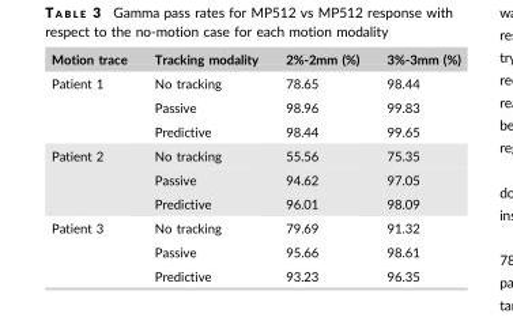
<table><thead><tr><td>Motion trace</td><td>Tracking modality</td><td>2%-2mm (%)</td><td>3%-3mm (%)</td></tr></thead><tbody><tr><td rowspan="3">Patient 1</td><td>No tracking</td><td>78.65</td><td>98.44</td></tr><tr><td>Passive</td><td>98.96</td><td>99.83</td></tr><tr><td>Predictive</td><td>98.44</td><td>99.65</td></tr><tr><td rowspan="3">Patient 2</td><td>No tracking</td><td>55.56</td><td>75.35</td></tr><tr><td>Passive</td><td>94.62</td><td>97.05</td></tr><tr><td>Predictive</td><td>96.01</td><td>98.09</td></tr><tr><td rowspan="3">Patient 3</td><td>No tracking</td><td>79.69</td><td>91.32</td></tr><tr><td>Passive</td><td>95.66</td><td>98.61</td></tr><tr><td>Predictive</td><td>93.23</td><td>96.35</td></tr></tbody></table>